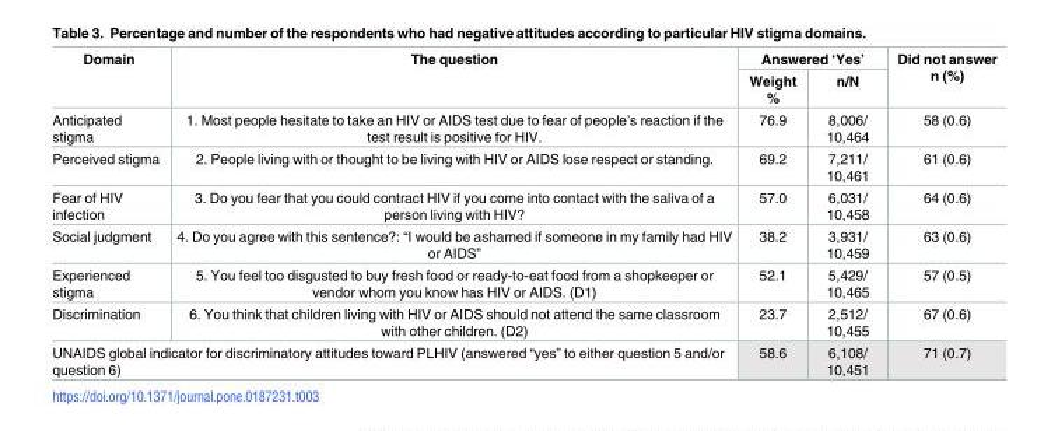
<table><thead><tr><td rowspan="2">Domain</td><td rowspan="2">The question</td><td colspan="2">Answered ‘Yes’</td><td rowspan="2">Did not answer n (%)</td></tr><tr><td>Weight %</td><td>n/N</td></tr></thead><tbody><tr><td>Anticipated stigma</td><td>1. Most people hesitate to take an HIV or AIDS test due to fear of people’s reaction if the test result is positive for HIV.</td><td>76.9</td><td>8,006/ 10,464</td><td>58 (0.6)</td></tr><tr><td>Perceived stigma</td><td>2. People living with or thought to be living with HIV or AIDS lose respect or standing.</td><td>69.2</td><td>7,211/ 10,461</td><td>61 (0.6)</td></tr><tr><td>Fear of HIV infection</td><td>3. Do you fear that you could contract HIV if you come into contact with the saliva of a person living with HIV?</td><td>57.0</td><td>6,031/ 10,458</td><td>64 (0.6)</td></tr><tr><td>Social judgment</td><td>4. Do you agree with this sentence?: “I would be ashamed if someone in my family had HIV or AIDS”</td><td>38.2</td><td>3,931/ 10,459</td><td>63 (0.6)</td></tr><tr><td>Experienced stigma</td><td>5. You feel too disgusted to buy fresh food or ready-to-eat food from a shopkeeper or vendor whom you know has HIV or AIDS. (D1)</td><td>52.1</td><td>5,429/ 10,465</td><td>57 (0.5)</td></tr><tr><td>Discrimination</td><td>6. You think that children living with HIV or AIDS should not attend the same classroom with other children. (D2)</td><td>23.7</td><td>2,512/ 10,455</td><td>67 (0.6)</td></tr><tr><td colspan="2">UNAIDS global indicator for discriminatory attitudes toward PLHIV (answered “yes” to either question 5 and/or question 6)</td><td>58.6</td><td>6,108/ 10,451</td><td>71 (0.7)</td></tr></tbody></table>